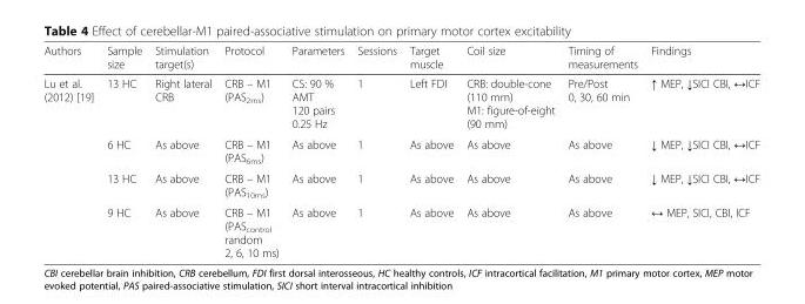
<table><thead><tr><td>Authors</td><td>Sample size</td><td>Stimulation target(s)</td><td>Protocol</td><td>Parameters</td><td>Sessions</td><td>Target muscle</td><td>Coil size</td><td>Timing of measurements</td><td>Findings</td></tr></thead><tbody><tr><td rowspan="4">Lu et al. (2012) [19]</td><td>13 HC</td><td>Right lateral CRB</td><td>CRB – M1 (PAS<sub>2ms</sub>)</td><td>CS: 90 % AMT 120 pairs 0.25 Hz</td><td>1</td><td>Left FDI</td><td>CRB: double-cone (110 mm) M1: figure-of-eight (90 mm)</td><td>Pre/Post 0, 30, 60 min</td><td>↑ MEP, ↓SICI CBI, ↔ICF</td></tr><tr><td>6 HC</td><td>As above</td><td>CRB – M1 (PAS<sub>6ms</sub>)</td><td>As above</td><td>1</td><td>As above</td><td>As above</td><td>As above</td><td>↓ MEP, ↓SICI CBI, ↔ICF</td></tr><tr><td>13 HC</td><td>As above</td><td>CRB – M1 (PAS<sub>10ms</sub>)</td><td>As above</td><td>1</td><td>As above</td><td>As above</td><td>As above</td><td>↓ MEP, ↓SICI CBI, ↔ICF</td></tr><tr><td>9 HC</td><td>As above</td><td>CRB – M1 (PAS<sub>control</sub> random 2, 6, 10 ms)</td><td>As above</td><td>1</td><td>As above</td><td>As above</td><td>As above</td><td>↔ MEP, SICI, CBI, ICF</td></tr></tbody></table>